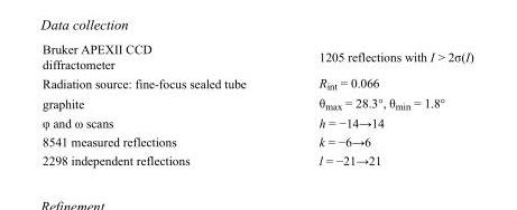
<table><tbody><tr><td>Bruker APEXII CCD diffractometer</td><td>1205 reflections with I &gt; 2σ(I)</td></tr><tr><td>Radiation source: fine-focus sealed tube</td><td>R<sub>int</sub> = 0.066</td></tr><tr><td>graphite</td><td>θ<sub>max</sub> = 28.3°, θ<sub>min</sub> = 1.8°</td></tr><tr><td>φ and ω scans</td><td>h = −14→14</td></tr><tr><td>8541 measured reflections</td><td>k = −6→6</td></tr><tr><td>2298 independent reflections</td><td>l = −21→21</td></tr></tbody></table>